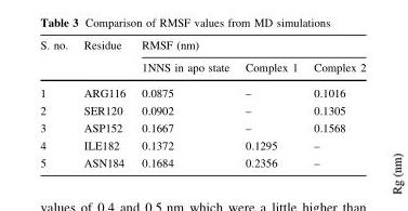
<table><thead><tr><td rowspan="2">S. no.</td><td rowspan="2">Residue</td><td colspan="3">RMSF (nm)</td></tr><tr><td>1NNS in apo state</td><td>Complex 1</td><td>Complex 2</td></tr></thead><tbody><tr><td>1</td><td>ARG116</td><td>0.0875</td><td>–</td><td>0.1016</td></tr><tr><td>2</td><td>SER120</td><td>0.0902</td><td>–</td><td>0.1305</td></tr><tr><td>3</td><td>ASP152</td><td>0.1667</td><td>–</td><td>0.1568</td></tr><tr><td>4</td><td>ILE182</td><td>0.1372</td><td>0.1295</td><td>–</td></tr><tr><td>5</td><td>ASN184</td><td>0.1684</td><td>0.2356</td><td>–</td></tr></tbody></table>